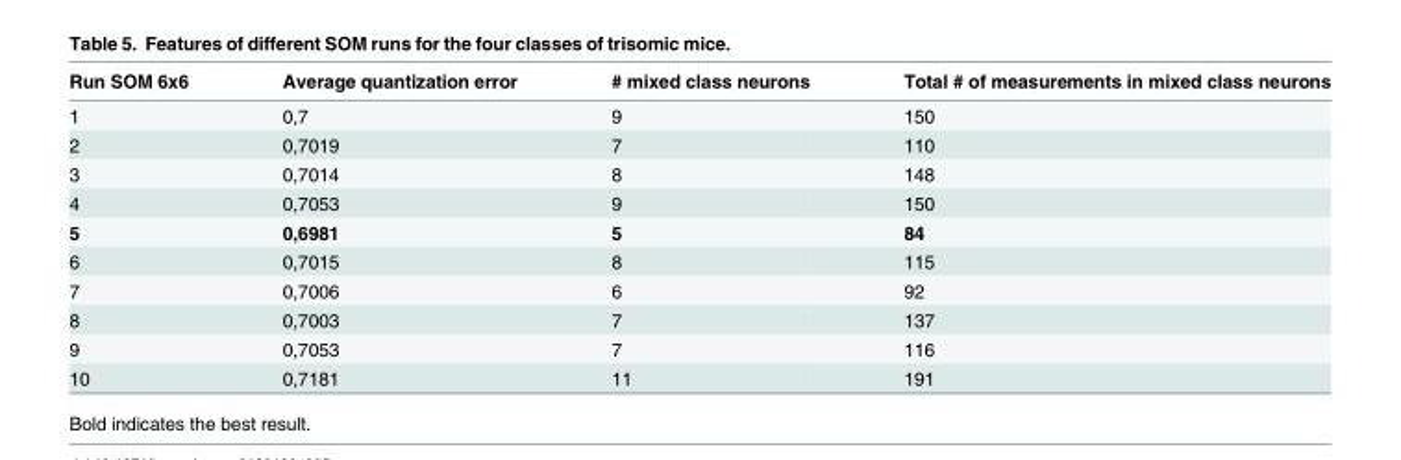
<table><thead><tr><td>Run SOM 6x6</td><td>Average quantization error</td><td># mixed class neurons</td><td>Total # of measurements in mixed class neurons</td></tr></thead><tbody><tr><td>1</td><td>0,7</td><td>9</td><td>150</td></tr><tr><td>2</td><td>0,7019</td><td>7</td><td>110</td></tr><tr><td>3</td><td>0,7014</td><td>8</td><td>148</td></tr><tr><td>4</td><td>0,7053</td><td>9</td><td>150</td></tr><tr><td>5</td><td>0,6981</td><td>5</td><td>84</td></tr><tr><td>6</td><td>0,7015</td><td>8</td><td>115</td></tr><tr><td>7</td><td>0,7006</td><td>6</td><td>92</td></tr><tr><td>8</td><td>0,7003</td><td>7</td><td>137</td></tr><tr><td>9</td><td>0,7053</td><td>7</td><td>116</td></tr><tr><td>10</td><td>0,7181</td><td>11</td><td>191</td></tr></tbody></table>